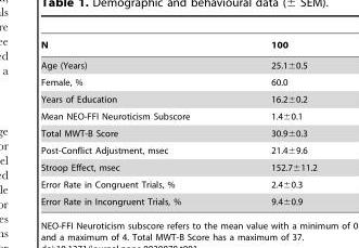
<table><thead><tr><td>N</td><td>100</td></tr></thead><tbody><tr><td>Age (Years)</td><td>25.1±0.5</td></tr><tr><td>Female, %</td><td>60.0</td></tr><tr><td>Years of Education</td><td>16.2±0.2</td></tr><tr><td>Mean NEO-FFI Neuroticism Subscore</td><td>1.4±0.1</td></tr><tr><td>Total MWT-B Score</td><td>30.9±0.3</td></tr><tr><td>Post-Conflict Adjustment, msec</td><td>21.4±9.6</td></tr><tr><td>Stroop Effect, msec</td><td>152.7±11.2</td></tr><tr><td>Error Rate in Congruent Trials, %</td><td>2.4±0.3</td></tr><tr><td>Error Rate in Incongruent Trials, %</td><td>9.4±0.9</td></tr></tbody></table>